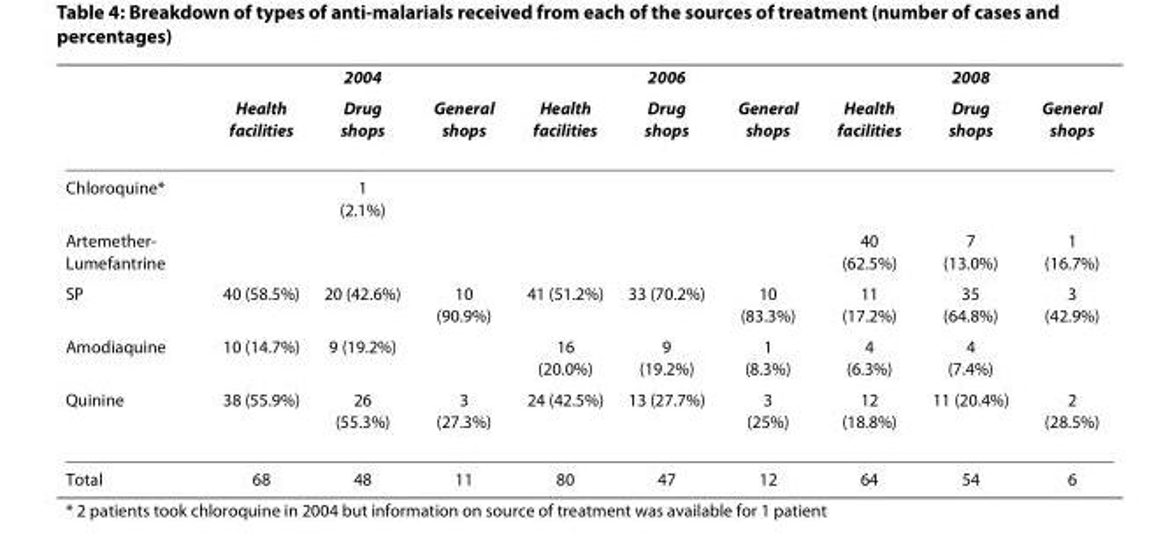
<table><thead><tr><td rowspan="2"></td><td colspan="3">2004</td><td colspan="3">2006</td><td colspan="3">2008</td></tr><tr><td>Health facilities</td><td>Drug shops</td><td>General shops</td><td>Health facilities</td><td>Drug shops</td><td>General shops</td><td>Health facilities</td><td>Drug shops</td><td>General shops</td></tr></thead><tbody><tr><td>Chloroquine*</td><td></td><td>1 (2.1%)</td><td></td><td></td><td></td><td></td><td></td><td></td><td></td></tr><tr><td>Artemether- Lumefantrine</td><td></td><td></td><td></td><td></td><td></td><td></td><td>40 (62.5%)</td><td>7 (13.0%)</td><td>1 (16.7%)</td></tr><tr><td>SP</td><td>40 (58.5%)</td><td>20 (42.6%)</td><td>10 (90.9%)</td><td>41 (51.2%)</td><td>33 (70.2%)</td><td>10 (83.3%)</td><td>11 (17.2%)</td><td>35 (64.8%)</td><td>3 (42.9%)</td></tr><tr><td>Amodiaquine</td><td>10 (14.7%)</td><td>9 (19.2%)</td><td></td><td>16 (20.0%)</td><td>9 (19.2%)</td><td>1 (8.3%)</td><td>4 (6.3%)</td><td>4 (7.4%)</td><td></td></tr><tr><td>Quinine</td><td>38 (55.9%)</td><td>26 (55.3%)</td><td>3 (27.3%)</td><td>24 (42.5%)</td><td>13 (27.7%)</td><td>3 (25%)</td><td>12 (18.8%)</td><td>11 (20.4%)</td><td>2 (28.5%)</td></tr><tr><td>Total</td><td>68</td><td>48</td><td>11</td><td>80</td><td>47</td><td>12</td><td>64</td><td>54</td><td>6</td></tr></tbody></table>